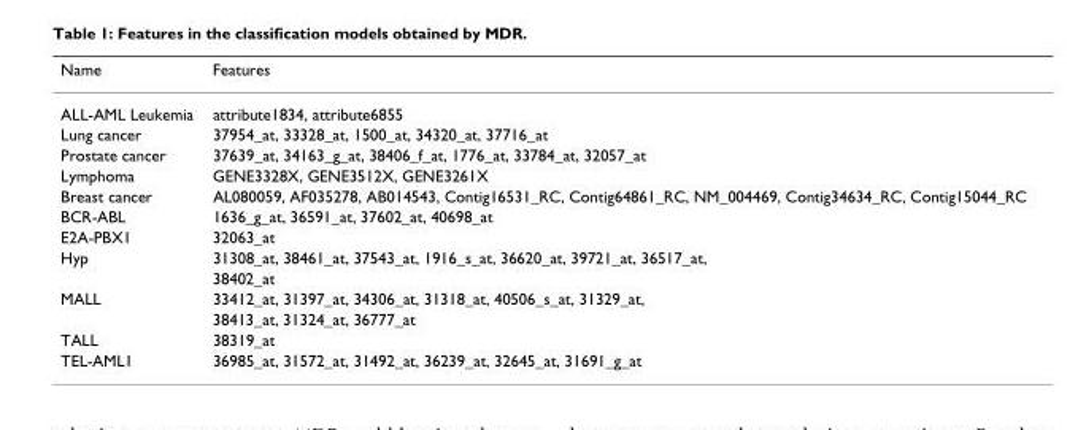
<table><thead><tr><td>Name</td><td>Features</td></tr></thead><tbody><tr><td>ALL-AML Leukemia</td><td>attribute1834, attribute6855</td></tr><tr><td>Lung cancer</td><td>37954_at, 33328_at, 1500_at, 34320_at, 37716_at</td></tr><tr><td>Prostate cancer</td><td>37639_at, 34163_g_at, 38406_f_at, 1776_at, 33784_at, 32057_at</td></tr><tr><td>Lymphoma</td><td>GENE3328X, GENE3512X, GENE3261X</td></tr><tr><td>Breast cancer</td><td>AL080059, AF035278, AB014543, Contig16531_RC, Contig64861_RC, NM_004469, Contig34634_RC, Contig15044_RC</td></tr><tr><td>BCR-ABL</td><td>1636_g_at, 36591_at, 37602_at, 40698_at</td></tr><tr><td>E2A-PBX1</td><td>32063_at</td></tr><tr><td rowspan="2">Hyp</td><td>31308_at, 38461_at, 37543_at, 1916_s_at, 36620_at, 39721_at, 36517_at,</td></tr><tr><td>38402_at</td></tr><tr><td rowspan="2">MALL</td><td>33412_at, 31397_at, 34306_at, 31318_at, 40506_s_at, 31329_at,</td></tr><tr><td>38413_at, 31324_at, 36777_at</td></tr><tr><td>TALL</td><td>38319_at</td></tr><tr><td>TEL-AML1</td><td>36985_at, 31572_at, 31492_at, 36239_at, 32645_at, 31691_g_at</td></tr></tbody></table>